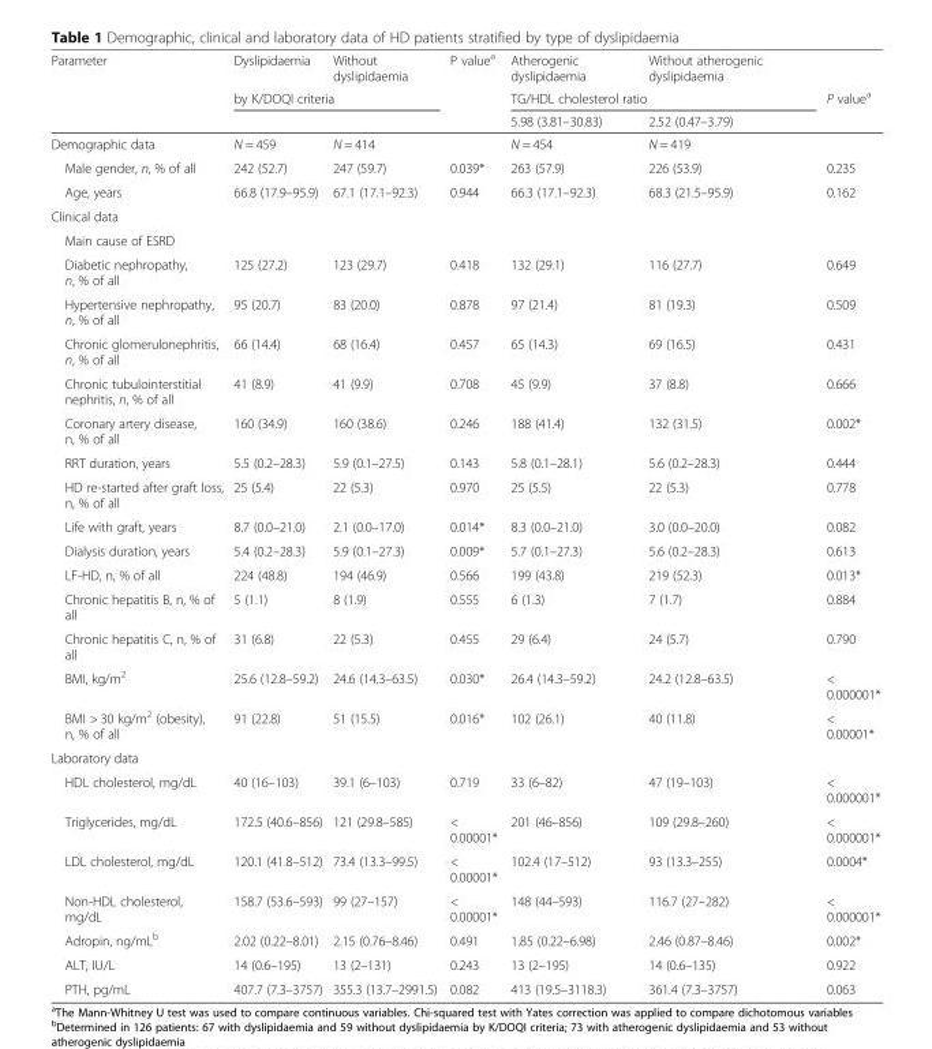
<table><thead><tr><td rowspan="3">Parameter</td><td>Dyslipidaemia</td><td>Without dyslipidaemia</td><td rowspan="3">P value<sup>a</sup></td><td>Atherogenic dyslipidaemia</td><td>Without atherogenic dyslipidaemia</td><td rowspan="3">P valuea</td></tr><tr><td colspan="2">by K/DOQI criteria</td><td colspan="2">TG/HDL cholesterol ratio</td></tr><tr><td></td><td></td><td>5.98 (3.81–30.83)</td><td>2.52 (0.47–3.79)</td></tr></thead><tbody><tr><td>Demographic data</td><td>N = 459</td><td>N = 414</td><td></td><td>N = 454</td><td>N = 419</td><td></td></tr><tr><td>Male gender, n, % of all</td><td>242 (52.7)</td><td>247 (59.7)</td><td>0.039*</td><td>263 (57.9)</td><td>226 (53.9)</td><td>0.235</td></tr><tr><td>Age, years</td><td>66.8 (17.9–95.9)</td><td>67.1 (17.1–92.3)</td><td>0.944</td><td>66.3 (17.1–92.3)</td><td>68.3 (21.5–95.9)</td><td>0.162</td></tr><tr><td colspan="7">Clinical data</td></tr><tr><td colspan="7">Main cause of ESRD</td></tr><tr><td>Diabetic nephropathy, n, % of all</td><td>125 (27.2)</td><td>123 (29.7)</td><td>0.418</td><td>132 (29.1)</td><td>116 (27.7)</td><td>0.649</td></tr><tr><td>Hypertensive nephropathy, n, % of all</td><td>95 (20.7)</td><td>83 (20.0)</td><td>0.878</td><td>97 (21.4)</td><td>81 (19.3)</td><td>0.509</td></tr><tr><td>Chronic glomerulonephritis, n, % of all</td><td>66 (14.4)</td><td>68 (16.4)</td><td>0.457</td><td>65 (14.3)</td><td>69 (16.5)</td><td>0.431</td></tr><tr><td>Chronic tubulointerstitial nephritis, n, % of all</td><td>41 (8.9)</td><td>41 (9.9)</td><td>0.708</td><td>45 (9.9)</td><td>37 (8.8)</td><td>0.666</td></tr><tr><td>Coronary artery disease, n, % of all</td><td>160 (34.9)</td><td>160 (38.6)</td><td>0.246</td><td>188 (41.4)</td><td>132 (31.5)</td><td>0.002*</td></tr><tr><td>RRT duration, years</td><td>5.5 (0.2–28.3)</td><td>5.9 (0.1–27.5)</td><td>0.143</td><td>5.8 (0.1–28.1)</td><td>5.6 (0.2–28.3)</td><td>0.444</td></tr><tr><td>HD re-started after graft loss, n, % of all</td><td>25 (5.4)</td><td>22 (5.3)</td><td>0.970</td><td>25 (5.5)</td><td>22 (5.3)</td><td>0.778</td></tr><tr><td>Life with graft, years</td><td>8.7 (0.0–21.0)</td><td>2.1 (0.0–17.0)</td><td>0.014*</td><td>8.3 (0.0–21.0)</td><td>3.0 (0.0–20.0)</td><td>0.082</td></tr><tr><td>Dialysis duration, years</td><td>5.4 (0.2–28.3)</td><td>5.9 (0.1–27.3)</td><td>0.009*</td><td>5.7 (0.1–27.3)</td><td>5.6 (0.2–28.3)</td><td>0.613</td></tr><tr><td>LF-HD, n, % of all</td><td>224 (48.8)</td><td>194 (46.9)</td><td>0.566</td><td>199 (43.8)</td><td>219 (52.3)</td><td>0.013*</td></tr><tr><td>Chronic hepatitis B, n, % of all</td><td>5 (1.1)</td><td>8 (1.9)</td><td>0.555</td><td>6 (1.3)</td><td>7 (1.7)</td><td>0.884</td></tr><tr><td>Chronic hepatitis C, n, % of all</td><td>31 (6.8)</td><td>22 (5.3)</td><td>0.455</td><td>29 (6.4)</td><td>24 (5.7)</td><td>0.790</td></tr><tr><td>BMI, kg/m<sup>2</sup></td><td>25.6 (12.8–59.2)</td><td>24.6 (14.3–63.5)</td><td>0.030*</td><td>26.4 (14.3–59.2)</td><td>24.2 (12.8–63.5)</td><td>&lt; 0.000001*</td></tr><tr><td>BMI &gt; 30 kg/m<sup>2</sup> (obesity), n, % of all</td><td>91 (22.8)</td><td>51 (15.5)</td><td>0.016*</td><td>102 (26.1)</td><td>40 (11.8)</td><td>&lt; 0.00001*</td></tr><tr><td colspan="7">Laboratory data</td></tr><tr><td>HDL cholesterol, mg/dL</td><td>40 (16–103)</td><td>39.1 (6–103)</td><td>0.719</td><td>33 (6–82)</td><td>47 (19–103)</td><td>&lt; 0.000001*</td></tr><tr><td>Triglycerides, mg/dL</td><td>172.5 (40.6–856)</td><td>121 (29.8–585)</td><td>&lt; 0.00001*</td><td>201 (46–856)</td><td>109 (29.8–260)</td><td>&lt; 0.000001*</td></tr><tr><td>LDL cholesterol, mg/dL</td><td>120.1 (41.8–512)</td><td>73.4 (13.3–99.5)</td><td>&lt; 0.00001*</td><td>102.4 (17–512)</td><td>93 (13.3–255)</td><td>0.0004*</td></tr><tr><td>Non-HDL cholesterol, mg/dL</td><td>158.7 (53.6–593)</td><td>99 (27–157)</td><td>&lt; 0.00001*</td><td>148 (44–593)</td><td>116.7 (27–282)</td><td>&lt; 0.000001*</td></tr><tr><td>Adropin, ng/mL<sup>b</sup></td><td>2.02 (0.22–8.01)</td><td>2.15 (0.76–8.46)</td><td>0.491</td><td>1.85 (0.22–6.98)</td><td>2.46 (0.87–8.46)</td><td>0.002*</td></tr><tr><td>ALT, IU/L</td><td>14 (0.6–195)</td><td>13 (2–131)</td><td>0.243</td><td>13 (2–195)</td><td>14 (0.6–135)</td><td>0.922</td></tr><tr><td>PTH, pg/mL</td><td>407.7 (7.3–3757)</td><td>355.3 (13.7–2991.5)</td><td>0.082</td><td>413 (19.5–3118.3)</td><td>361.4 (7.3–3757)</td><td>0.063</td></tr></tbody></table>